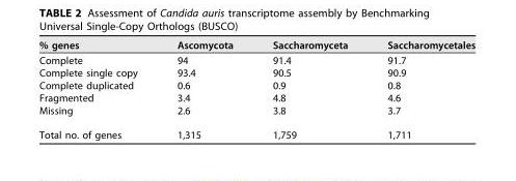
<table><thead><tr><td>% genes</td><td>Ascomycota</td><td>Saccharomyceta</td><td>Saccharomycetales</td></tr></thead><tbody><tr><td>Complete</td><td>94</td><td>91.4</td><td>91.7</td></tr><tr><td>Complete single copy</td><td>93.4</td><td>90.5</td><td>90.9</td></tr><tr><td>Complete duplicated</td><td>0.6</td><td>0.9</td><td>0.8</td></tr><tr><td>Fragmented</td><td>3.4</td><td>4.8</td><td>4.6</td></tr><tr><td>Missing</td><td>2.6</td><td>3.8</td><td>3.7</td></tr><tr><td>Total no. of genes</td><td>1,315</td><td>1,759</td><td>1,711</td></tr></tbody></table>